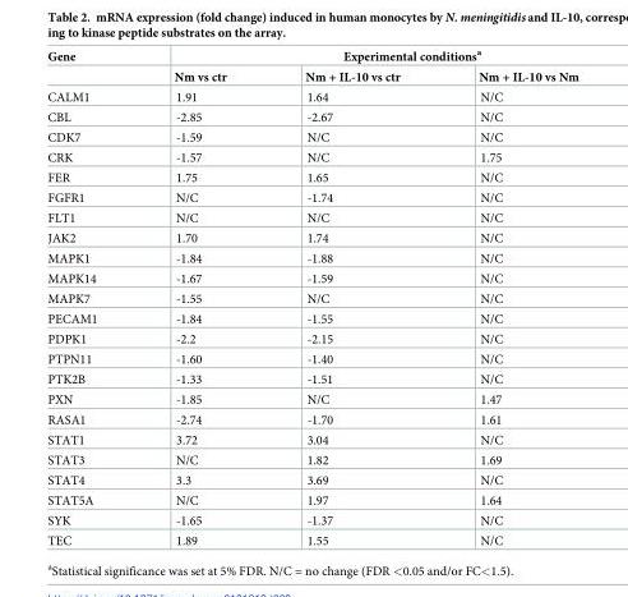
<table><thead><tr><td rowspan="2">Gene</td><td colspan="3">Experimental conditions<sup>a</sup></td></tr><tr><td>Nm vs ctr</td><td>Nm + IL-10 vs ctr</td><td>Nm + IL-10 vs Nm</td></tr></thead><tbody><tr><td>CALM1</td><td>1.91</td><td>1.64</td><td>N/C</td></tr><tr><td>CBL</td><td>-2.85</td><td>-2.67</td><td>N/C</td></tr><tr><td>CDK7</td><td>-1.59</td><td>N/C</td><td>N/C</td></tr><tr><td>CRK</td><td>-1.57</td><td>N/C</td><td>1.75</td></tr><tr><td>FER</td><td>1.75</td><td>1.65</td><td>N/C</td></tr><tr><td>FGFR1</td><td>N/C</td><td>-1.74</td><td>N/C</td></tr><tr><td>FLT1</td><td>N/C</td><td>N/C</td><td>N/C</td></tr><tr><td>JAK2</td><td>1.70</td><td>1.74</td><td>N/C</td></tr><tr><td>MAPK1</td><td>-1.84</td><td>-1.88</td><td>N/C</td></tr><tr><td>MAPK14</td><td>-1.67</td><td>-1.59</td><td>N/C</td></tr><tr><td>MAPK7</td><td>-1.55</td><td>N/C</td><td>N/C</td></tr><tr><td>PECAM1</td><td>-1.84</td><td>-1.55</td><td>N/C</td></tr><tr><td>PDPK1</td><td>-2.2</td><td>-2.15</td><td>N/C</td></tr><tr><td>PTPN11</td><td>-1.60</td><td>-1.40</td><td>N/C</td></tr><tr><td>PTK2B</td><td>-1.33</td><td>-1.51</td><td>N/C</td></tr><tr><td>PXN</td><td>-1.85</td><td>N/C</td><td>1.47</td></tr><tr><td>RASA1</td><td>-2.74</td><td>-1.70</td><td>1.61</td></tr><tr><td>STAT1</td><td>3.72</td><td>3.04</td><td>N/C</td></tr><tr><td>STAT3</td><td>N/C</td><td>1.82</td><td>1.69</td></tr><tr><td>STAT4</td><td>3.3</td><td>3.69</td><td>N/C</td></tr><tr><td>STAT5A</td><td>N/C</td><td>1.97</td><td>1.64</td></tr><tr><td>SYK</td><td>-1.65</td><td>-1.37</td><td>N/C</td></tr><tr><td>TEC</td><td>1.89</td><td>1.55</td><td>N/C</td></tr></tbody></table>